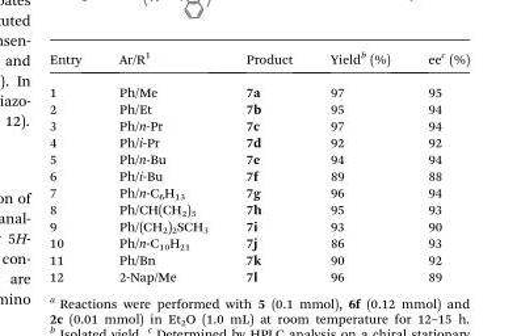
<table><thead><tr><td>Entry</td><td>Ar/R<sup>1</sup></td><td>Product</td><td>Yield<sup>b</sup> (%)</td><td>ee<sup>c</sup> (%)</td></tr></thead><tbody><tr><td>1</td><td>Ph/Me</td><td>7a</td><td>97</td><td>95</td></tr><tr><td>2</td><td>Ph/Et</td><td>7b</td><td>95</td><td>94</td></tr><tr><td>3</td><td>Ph/n-Pr</td><td>7c</td><td>97</td><td>94</td></tr><tr><td>4</td><td>Ph/i-Pr</td><td>7d</td><td>92</td><td>92</td></tr><tr><td>5</td><td>Ph/n-Bu</td><td>7e</td><td>94</td><td>94</td></tr><tr><td>6</td><td>Ph/i-Bu</td><td>7f</td><td>89</td><td>88</td></tr><tr><td>7</td><td>Ph/n-C<sub>6</sub>H<sub>13</sub></td><td>7g</td><td>96</td><td>94</td></tr><tr><td>8</td><td>Ph/CH(CH<sub>2</sub>)<sub>5</sub></td><td>7h</td><td>95</td><td>93</td></tr><tr><td>9</td><td>Ph/(CH<sub>2</sub>)<sub>2</sub>SCH<sub>3</sub></td><td>7i</td><td>93</td><td>90</td></tr><tr><td>10</td><td>Ph/n-C<sub>10</sub>H<sub>21</sub></td><td>7j</td><td>86</td><td>93</td></tr><tr><td>11</td><td>Ph/Bn</td><td>7k</td><td>90</td><td>92</td></tr><tr><td>12</td><td>2-Nap/Me</td><td>7l</td><td>96</td><td>89</td></tr></tbody></table>